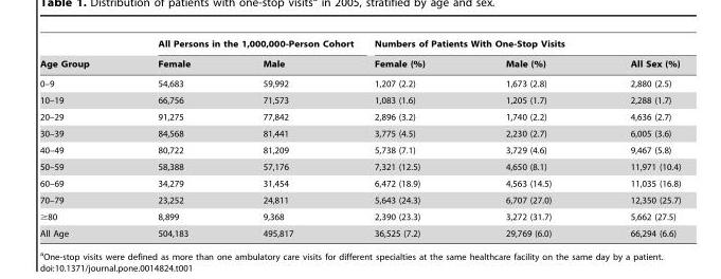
<table><thead><tr><td rowspan="2">Age Group</td><td colspan="2">All Persons in the 1,000,000-Person Cohort</td><td colspan="3">Numbers of Patients With One-Stop Visits</td></tr><tr><td>Female</td><td>Male</td><td>Female (%)</td><td>Male (%)</td><td>All Sex (%)</td></tr></thead><tbody><tr><td>0–9</td><td>54,683</td><td>59,992</td><td>1,207 (2.2)</td><td>1,673 (2.8)</td><td>2,880 (2.5)</td></tr><tr><td>10–19</td><td>66,756</td><td>71,573</td><td>1,083 (1.6)</td><td>1,205 (1.7)</td><td>2,288 (1.7)</td></tr><tr><td>20–29</td><td>91,275</td><td>77,842</td><td>2,896 (3.2)</td><td>1,740 (2.2)</td><td>4,636 (2.7)</td></tr><tr><td>30–39</td><td>84,568</td><td>81,441</td><td>3,775 (4.5)</td><td>2,230 (2.7)</td><td>6,005 (3.6)</td></tr><tr><td>40–49</td><td>80,722</td><td>81,209</td><td>5,738 (7.1)</td><td>3,729 (4.6)</td><td>9,467 (5.8)</td></tr><tr><td>50–59</td><td>58,388</td><td>57,176</td><td>7,321 (12.5)</td><td>4,650 (8.1)</td><td>11,971 (10.4)</td></tr><tr><td>60–69</td><td>34,279</td><td>31,454</td><td>6,472 (18.9)</td><td>4,563 (14.5)</td><td>11,035 (16.8)</td></tr><tr><td>70–79</td><td>23,252</td><td>24,811</td><td>5,643 (24.3)</td><td>6,707 (27.0)</td><td>12,350 (25.7)</td></tr><tr><td>≥80</td><td>8,899</td><td>9,368</td><td>2,390 (23.3)</td><td>3,272 (31.7)</td><td>5,662 (27.5)</td></tr><tr><td>All Age</td><td>504,183</td><td>495,817</td><td>36,525 (7.2)</td><td>29,769 (6.0)</td><td>66,294 (6.6)</td></tr></tbody></table>